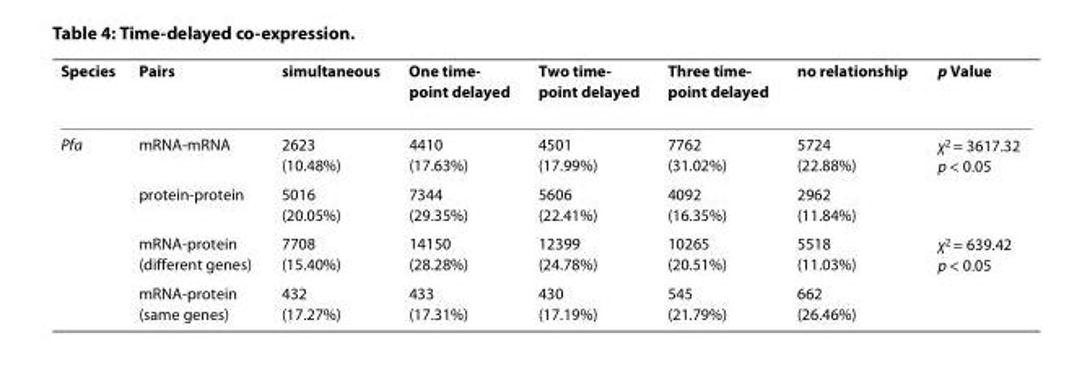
<table><thead><tr><td>Species</td><td>Pairs</td><td>simultaneous</td><td>One time- point delayed</td><td>Two time- point delayed</td><td>Three time- point delayed</td><td>no relationship</td><td>p Value</td></tr></thead><tbody><tr><td rowspan="4">Pfa</td><td>mRNA-mRNA</td><td>2623 (10.48%)</td><td>4410 (17.63%)</td><td>4501 (17.99%)</td><td>7762 (31.02%)</td><td>5724 (22.88%)</td><td>χ<sup>2</sup> = 3617.32 p &lt; 0.05</td></tr><tr><td>protein-protein</td><td>5016 (20.05%)</td><td>7344 (29.35%)</td><td>5606 (22.41%)</td><td>4092 (16.35%)</td><td>2962 (11.84%)</td><td></td></tr><tr><td>mRNA-protein (different genes)</td><td>7708 (15.40%)</td><td>14150 (28.28%)</td><td>12399 (24.78%)</td><td>10265 (20.51%)</td><td>5518 (11.03%)</td><td>χ<sup>2</sup> = 639.42 p &lt; 0.05</td></tr><tr><td>mRNA-protein (same genes)</td><td>432 (17.27%)</td><td>433 (17.31%)</td><td>430 (17.19%)</td><td>545 (21.79%)</td><td>662 (26.46%)</td><td></td></tr></tbody></table>